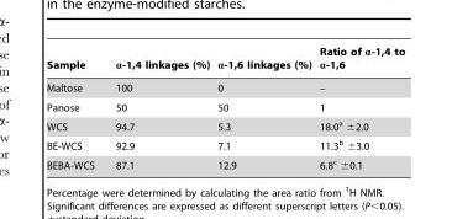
<table><thead><tr><td>Sample</td><td>α-1,4 linkages (%)</td><td>α-1,6 linkages (%)</td><td>Ratio of α-1,4 to α-1,6</td></tr></thead><tbody><tr><td>Maltose</td><td>100</td><td>0</td><td>–</td></tr><tr><td>Panose</td><td>50</td><td>50</td><td>1</td></tr><tr><td>WCS</td><td>94.7</td><td>5.3</td><td>18.0<sup>a</sup> ±2.0</td></tr><tr><td>BE-WCS</td><td>92.9</td><td>7.1</td><td>11.3<sup>b</sup> ±3.0</td></tr><tr><td>BEBA-WCS</td><td>87.1</td><td>12.9</td><td>6.8<sup>c</sup> ±0.1</td></tr></tbody></table>